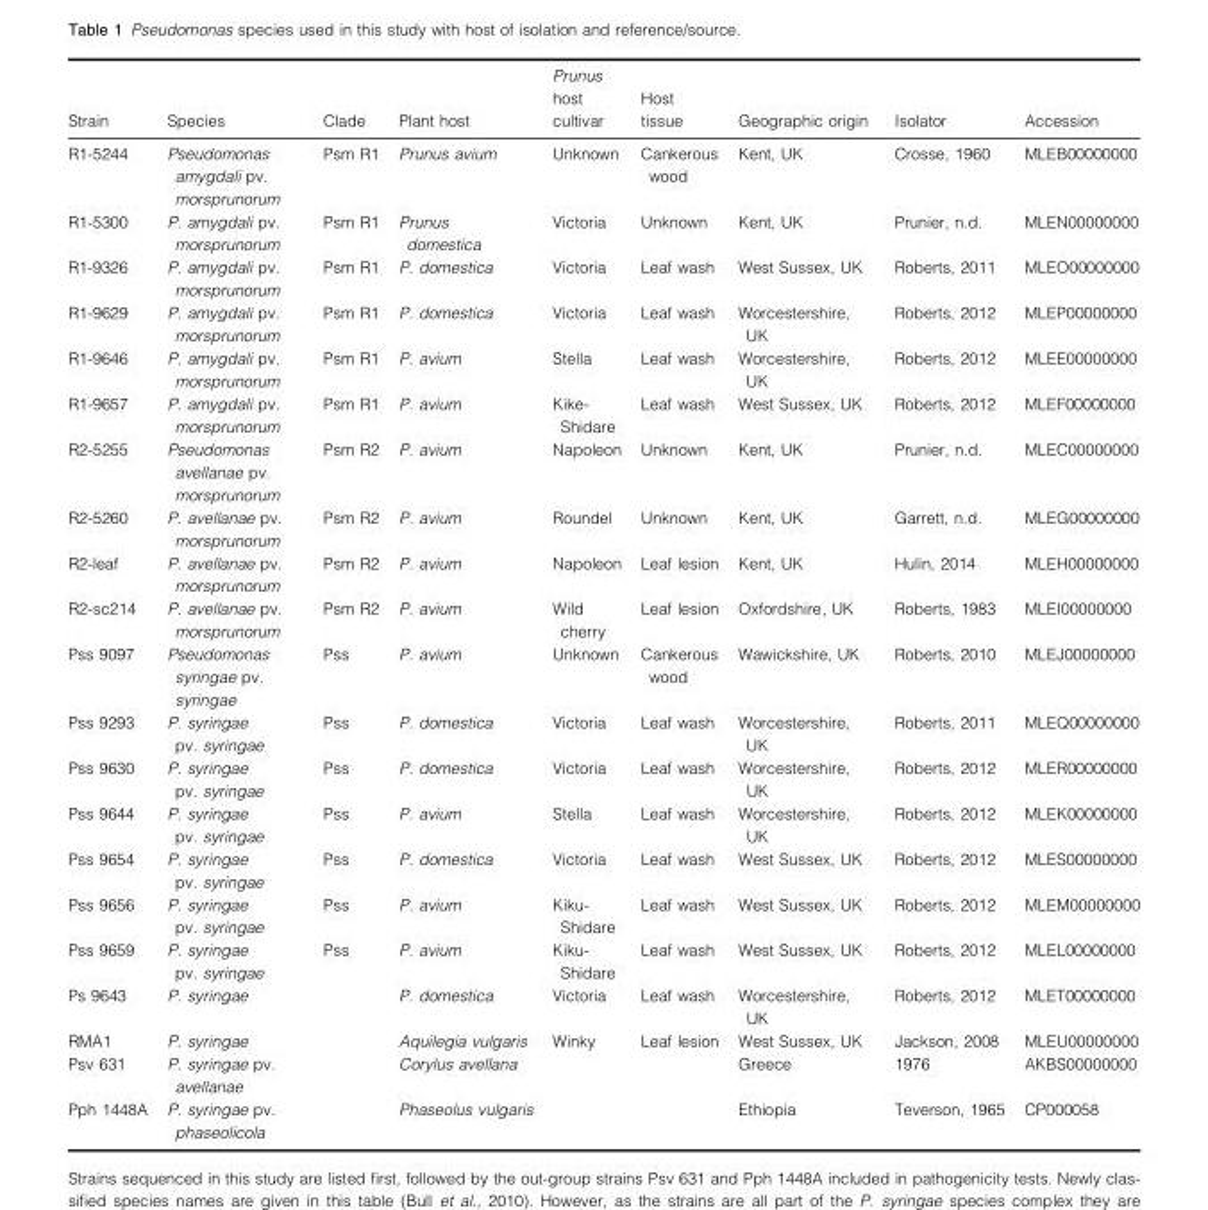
<table><thead><tr><td>Strain</td><td>Species</td><td>Clade</td><td>Plant host</td><td>Prunus host cultivar</td><td>Host tissue</td><td>Geographic origin</td><td>Isolator</td><td>Accession</td></tr></thead><tbody><tr><td>R1-5244</td><td>Pseudomonas amygdali pv. morsprunorum</td><td>Psm R1</td><td>Prunus avium</td><td>Unknown</td><td>Cankerous wood</td><td>Kent, UK</td><td>Crosse, 1960</td><td>MLEB00000000</td></tr><tr><td>R1-5300</td><td>P. amygdali pv. morsprunorum</td><td>Psm R1</td><td>Prunus domestica</td><td>Victoria</td><td>Unknown</td><td>Kent, UK</td><td>Prunier, n.d.</td><td>MLEN00000000</td></tr><tr><td>R1-9326</td><td>P. amygdali pv. morsprunorum</td><td>Psm R1</td><td>P. domestica</td><td>Victoria</td><td>Leaf wash</td><td>West Sussex, UK</td><td>Roberts, 2011</td><td>MLEO00000000</td></tr><tr><td>R1-9629</td><td>P. amygdali pv. morsprunorum</td><td>Psm R1</td><td>P. domestica</td><td>Victoria</td><td>Leaf wash</td><td>Worcestershire, UK</td><td>Roberts, 2012</td><td>MLEP00000000</td></tr><tr><td>R1-9646</td><td>P. amygdali pv. morsprunorum</td><td>Psm R1</td><td>P. avium</td><td>Stella</td><td>Leaf wash</td><td>Worcestershire, UK</td><td>Roberts, 2012</td><td>MLEE00000000</td></tr><tr><td>R1-9657</td><td>P. amygdali pv. morsprunorum</td><td>Psm R1</td><td>P. avium</td><td>Kike- Shidare</td><td>Leaf wash</td><td>West Sussex, UK</td><td>Roberts, 2012</td><td>MLEF00000000</td></tr><tr><td>R2-5255</td><td>Pseudomonas avellanae pv. morsprunorum</td><td>Psm R2</td><td>P. avium</td><td>Napoleon</td><td>Unknown</td><td>Kent, UK</td><td>Prunier, n.d.</td><td>MLEC00000000</td></tr><tr><td>R2-5260</td><td>P. avellanae pv. morsprunorum</td><td>Psm R2</td><td>P. avium</td><td>Roundel</td><td>Unknown</td><td>Kent, UK</td><td>Garrett, n.d.</td><td>MLEG00000000</td></tr><tr><td>R2-leaf</td><td>P. avellanae pv. morsprunorum</td><td>Psm R2</td><td>P. avium</td><td>Napoleon</td><td>Leaf lesion</td><td>Kent, UK</td><td>Hulin, 2014</td><td>MLEH00000000</td></tr><tr><td>R2-sc214</td><td>P. avellanae pv. morsprunorum</td><td>Psm R2</td><td>P. avium</td><td>Wild cherry</td><td>Leaf lesion</td><td>Oxfordshire, UK</td><td>Roberts, 1983</td><td>MLEI00000000</td></tr><tr><td>Pss 9097</td><td>Pseudomonas syringae pv. syringae</td><td>Pss</td><td>P. avium</td><td>Unknown</td><td>Cankerous wood</td><td>Wawickshire, UK</td><td>Roberts, 2010</td><td>MLEJ00000000</td></tr><tr><td>Pss 9293</td><td>P. syringae pv. syringae</td><td>Pss</td><td>P. domestica</td><td>Victoria</td><td>Leaf wash</td><td>Worcestershire, UK</td><td>Roberts, 2011</td><td>MLEQ00000000</td></tr><tr><td>Pss 9630</td><td>P. syringae pv. syringae</td><td>Pss</td><td>P. domestica</td><td>Victoria</td><td>Leaf wash</td><td>Worcestershire, UK</td><td>Roberts, 2012</td><td>MLER00000000</td></tr><tr><td>Pss 9644</td><td>P. syringae pv. syringae</td><td>Pss</td><td>P. avium</td><td>Stella</td><td>Leaf wash</td><td>Worcestershire, UK</td><td>Roberts, 2012</td><td>MLEK00000000</td></tr><tr><td>Pss 9654</td><td>P. syringae pv. syringae</td><td>Pss</td><td>P. domestica</td><td>Victoria</td><td>Leaf wash</td><td>West Sussex, UK</td><td>Roberts, 2012</td><td>MLES00000000</td></tr><tr><td>Pss 9656</td><td>P. syringae pv. syringae</td><td>Pss</td><td>P. avium</td><td>Kiku- Shidare</td><td>Leaf wash</td><td>West Sussex, UK</td><td>Roberts, 2012</td><td>MLEM00000000</td></tr><tr><td>Pss 9659</td><td>P. syringae pv. syringae</td><td>Pss</td><td>P. avium</td><td>Kiku- Shidare</td><td>Leaf wash</td><td>West Sussex, UK</td><td>Roberts, 2012</td><td>MLEL00000000</td></tr><tr><td>Ps 9643</td><td>P. syringae</td><td></td><td>P. domestica</td><td>Victoria</td><td>Leaf wash</td><td>Worcestershire, UK</td><td>Roberts, 2012</td><td>MLET00000000</td></tr><tr><td>RMA1</td><td>P. syringae</td><td></td><td>Aquilegia vulgaris</td><td>Winky</td><td>Leaf lesion</td><td>West Sussex, UK</td><td>Jackson, 2008</td><td>MLEU00000000</td></tr><tr><td>Psv 631</td><td>P. syringae pv. avellanae</td><td></td><td>Corylus avellana</td><td></td><td></td><td>Greece</td><td>1976</td><td>AKBS00000000</td></tr><tr><td>Pph 1448A</td><td>P. syringae pv. phaseolicola</td><td></td><td>Phaseolus vulgaris</td><td></td><td></td><td>Ethiopia</td><td>Teverson, 1965</td><td>CP000058</td></tr></tbody></table>